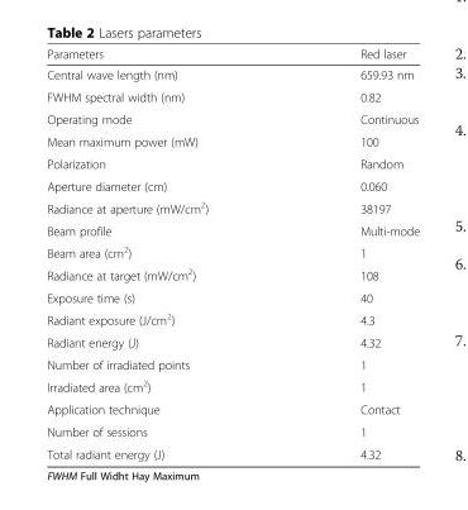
<table><thead><tr><td>Parameters</td><td>Red laser</td></tr></thead><tbody><tr><td>Central wave length (nm)</td><td>659.93 nm</td></tr><tr><td>FWHM spectral width (nm)</td><td>0.82</td></tr><tr><td>Operating mode</td><td>Continuous</td></tr><tr><td>Mean maximum power (mW)</td><td>100</td></tr><tr><td>Polarization</td><td>Random</td></tr><tr><td>Aperture diameter (cm)</td><td>0.060</td></tr><tr><td>Radiance at aperture (mW/cm<sup>2</sup>)</td><td>38197</td></tr><tr><td>Beam profile</td><td>Multi-mode</td></tr><tr><td>Beam area (cm<sup>2</sup>)</td><td>1</td></tr><tr><td>Radiance at target (mW/cm<sup>2</sup>)</td><td>108</td></tr><tr><td>Exposure time (s)</td><td>40</td></tr><tr><td>Radiant exposure (J/cm<sup>2</sup>)</td><td>4.3</td></tr><tr><td>Radiant energy (J)</td><td>4.32</td></tr><tr><td>Number of irradiated points</td><td>1</td></tr><tr><td>Irradiated area (cm<sup>2</sup>)</td><td>1</td></tr><tr><td>Application technique</td><td>Contact</td></tr><tr><td>Number of sessions</td><td>1</td></tr><tr><td>Total radiant energy (J)</td><td>4.32</td></tr></tbody></table>